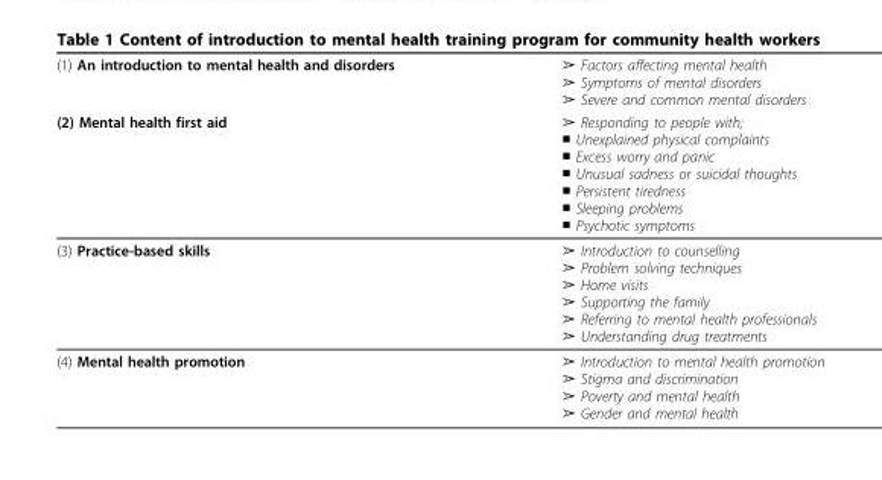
<table><thead><tr><td rowspan="2">(1) An introduction to mental health and disorders (2) Mental health first aid</td><td rowspan="2">➢ Factors affecting mental health ➢ Symptoms of mental disorders ➢ Severe and common mental disorders ➢ Responding to people with; ■ Unexplained physical complaints ■ Excess worry and panic ■ Unusual sadness or suicidal thoughts ■ Persistent tiredness ■ Sleeping problems ■ Psychotic symptoms</td></tr><tr></tr></thead><tbody><tr><td>(3) Practice-based skills</td><td>➢ Introduction to counselling ➢ Problem solving techniques ➢ Home visits ➢ Supporting the family ➢ Referring to mental health professionals ➢ Understanding drug treatments</td></tr><tr><td>(4) Mental health promotion</td><td>➢ Introduction to mental health promotion ➢ Stigma and discrimination ➢ Poverty and mental health ➢ Gender and mental health</td></tr></tbody></table>